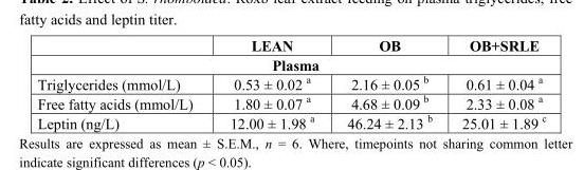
<table><thead><tr><td></td><td>LEAN</td><td>OB</td><td>OB+SRLE</td></tr></thead><tbody><tr><td colspan="4">Plasma</td></tr><tr><td>Triglycerides (mmol/L)</td><td>0.53 ± 0.02 <sup>a</sup></td><td>2.16 ± 0.05 <sup>b</sup></td><td>0.61 ± 0.04 <sup>a</sup></td></tr><tr><td>Free fatty acids (mmol/L)</td><td>1.80 ± 0.07 <sup>a</sup></td><td>4.68 ± 0.09 <sup>b</sup></td><td>2.33 ± 0.08 <sup>a</sup></td></tr><tr><td>Leptin (ng/L)</td><td>12.00 ± 1.98 <sup>a</sup></td><td>46.24 ± 2.13 <sup>b</sup></td><td>25.01 ± 1.89 <sup>c</sup></td></tr></tbody></table>